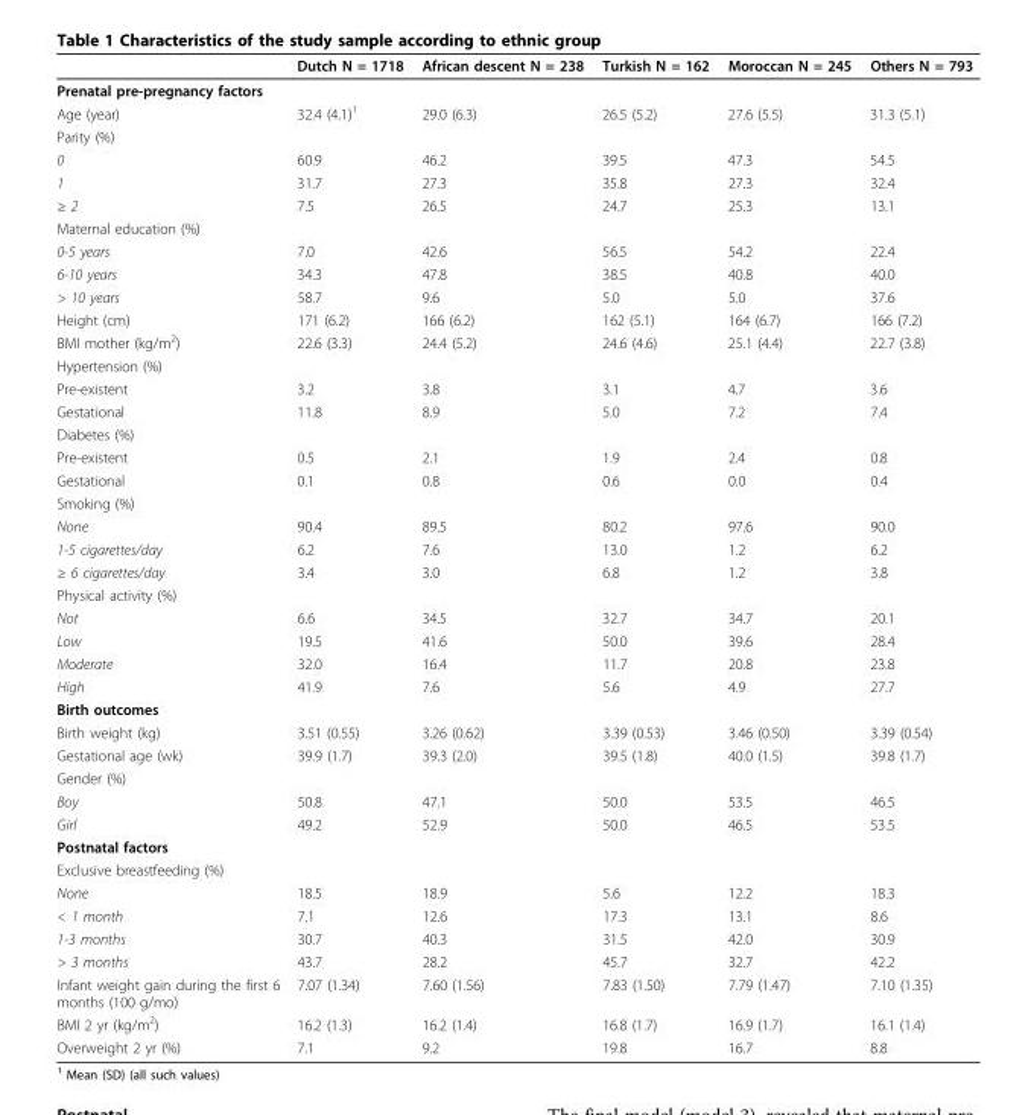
<table><thead><tr><td></td><td>Dutch N = 1718</td><td>African descent N = 238</td><td>Turkish N = 162</td><td>Moroccan N = 245</td><td>Others N = 793</td></tr></thead><tbody><tr><td colspan="6">Prenatal pre-pregnancy factors</td></tr><tr><td>Age (year)</td><td>32.4 (4.1)<sup>1</sup></td><td>29.0 (6.3)</td><td>26.5 (5.2)</td><td>27.6 (5.5)</td><td>31.3 (5.1)</td></tr><tr><td colspan="6">Parity (%)</td></tr><tr><td>0</td><td>60.9</td><td>46.2</td><td>39.5</td><td>47.3</td><td>54.5</td></tr><tr><td>1</td><td>31.7</td><td>27.3</td><td>35.8</td><td>27.3</td><td>32.4</td></tr><tr><td>≥ 2</td><td>7.5</td><td>26.5</td><td>24.7</td><td>25.3</td><td>13.1</td></tr><tr><td colspan="6">Maternal education (%)</td></tr><tr><td>0-5 years</td><td>7.0</td><td>42.6</td><td>56.5</td><td>54.2</td><td>22.4</td></tr><tr><td>6-10 years</td><td>34.3</td><td>47.8</td><td>38.5</td><td>40.8</td><td>40.0</td></tr><tr><td>&gt; 10 years</td><td>58.7</td><td>9.6</td><td>5.0</td><td>5.0</td><td>37.6</td></tr><tr><td>Height (cm)</td><td>171 (6.2)</td><td>166 (6.2)</td><td>162 (5.1)</td><td>164 (6.7)</td><td>166 (7.2)</td></tr><tr><td>BMI mother (kg/m<sup>2</sup>)</td><td>22.6 (3.3)</td><td>24.4 (5.2)</td><td>24.6 (4.6)</td><td>25.1 (4.4)</td><td>22.7 (3.8)</td></tr><tr><td colspan="6">Hypertension (%)</td></tr><tr><td>Pre-existent</td><td>3.2</td><td>3.8</td><td>3.1</td><td>4.7</td><td>3.6</td></tr><tr><td>Gestational</td><td>11.8</td><td>8.9</td><td>5.0</td><td>7.2</td><td>7.4</td></tr><tr><td colspan="6">Diabetes (%)</td></tr><tr><td>Pre-existent</td><td>0.5</td><td>2.1</td><td>1.9</td><td>2.4</td><td>0.8</td></tr><tr><td>Gestational</td><td>0.1</td><td>0.8</td><td>0.6</td><td>0.0</td><td>0.4</td></tr><tr><td colspan="6">Smoking (%)</td></tr><tr><td>None</td><td>90.4</td><td>89.5</td><td>80.2</td><td>97.6</td><td>90.0</td></tr><tr><td>1-5 cigarettes/day</td><td>6.2</td><td>7.6</td><td>13.0</td><td>1.2</td><td>6.2</td></tr><tr><td>≥ 6 cigarettes/day</td><td>3.4</td><td>3.0</td><td>6.8</td><td>1.2</td><td>3.8</td></tr><tr><td colspan="6">Physical activity (%)</td></tr><tr><td>Not</td><td>6.6</td><td>34.5</td><td>32.7</td><td>34.7</td><td>20.1</td></tr><tr><td>Low</td><td>19.5</td><td>41.6</td><td>50.0</td><td>39.6</td><td>28.4</td></tr><tr><td>Moderate</td><td>32.0</td><td>16.4</td><td>11.7</td><td>20.8</td><td>23.8</td></tr><tr><td>High</td><td>41.9</td><td>7.6</td><td>5.6</td><td>4.9</td><td>27.7</td></tr><tr><td colspan="6">Birth outcomes</td></tr><tr><td>Birth weight (kg)</td><td>3.51 (0.55)</td><td>3.26 (0.62)</td><td>3.39 (0.53)</td><td>3.46 (0.50)</td><td>3.39 (0.54)</td></tr><tr><td>Gestational age (wk)</td><td>39.9 (1.7)</td><td>39.3 (2.0)</td><td>39.5 (1.8)</td><td>40.0 (1.5)</td><td>39.8 (1.7)</td></tr><tr><td colspan="6">Gender (%)</td></tr><tr><td>Boy</td><td>50.8</td><td>47.1</td><td>50.0</td><td>53.5</td><td>46.5</td></tr><tr><td>Girl</td><td>49.2</td><td>52.9</td><td>50.0</td><td>46.5</td><td>53.5</td></tr><tr><td colspan="6">Postnatal factors</td></tr><tr><td colspan="6">Exclusive breastfeeding (%)</td></tr><tr><td>None</td><td>18.5</td><td>18.9</td><td>5.6</td><td>12.2</td><td>18.3</td></tr><tr><td>&lt; 1 month</td><td>7.1</td><td>12.6</td><td>17.3</td><td>13.1</td><td>8.6</td></tr><tr><td>1-3 months</td><td>30.7</td><td>40.3</td><td>31.5</td><td>42.0</td><td>30.9</td></tr><tr><td>&gt; 3 months</td><td>43.7</td><td>28.2</td><td>45.7</td><td>32.7</td><td>42.2</td></tr><tr><td>Infant weight gain during the first 6 months (100 g/mo)</td><td>7.07 (1.34)</td><td>7.60 (1.56)</td><td>7.83 (1.50)</td><td>7.79 (1.47)</td><td>7.10 (1.35)</td></tr><tr><td>BMI 2 yr (kg/m<sup>2</sup>)</td><td>16.2 (1.3)</td><td>16.2 (1.4)</td><td>16.8 (1.7)</td><td>16.9 (1.7)</td><td>16.1 (1.4)</td></tr><tr><td>Overweight 2 yr (%)</td><td>7.1</td><td>9.2</td><td>19.8</td><td>16.7</td><td>8.8</td></tr></tbody></table>